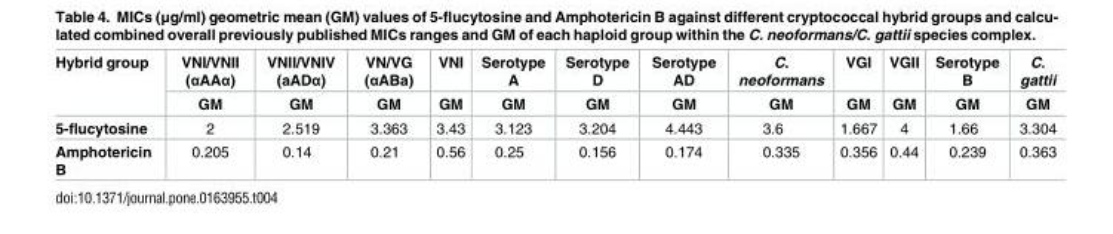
<table><thead><tr><td rowspan="2">Hybrid group</td><td rowspan="2">VNI/VNII (αAAα) GM</td><td rowspan="2">VNII/VNIV (aADα) GM</td><td rowspan="2">VN/VG (αABa) GM</td><td rowspan="2">VNI GM</td><td rowspan="2">Serotype A GM</td><td rowspan="2">Serotype D GM</td><td rowspan="2">Serotype AD GM</td><td rowspan="2">C. neoformans GM</td><td rowspan="2">VGI GM</td><td rowspan="2">VGII GM</td><td rowspan="2">Serotype B GM</td><td rowspan="2">C. gattii GM</td></tr><tr></tr></thead><tbody><tr><td>5-flucytosine</td><td>2</td><td>2.519</td><td>3.363</td><td>3.43</td><td>3.123</td><td>3.204</td><td>4.443</td><td>3.6</td><td>1.667</td><td>4</td><td>1.66</td><td>3.304</td></tr><tr><td>Amphotericin B</td><td>0.205</td><td>0.14</td><td>0.21</td><td>0.56</td><td>0.25</td><td>0.156</td><td>0.174</td><td>0.335</td><td>0.356</td><td>0.44</td><td>0.239</td><td>0.363</td></tr></tbody></table>